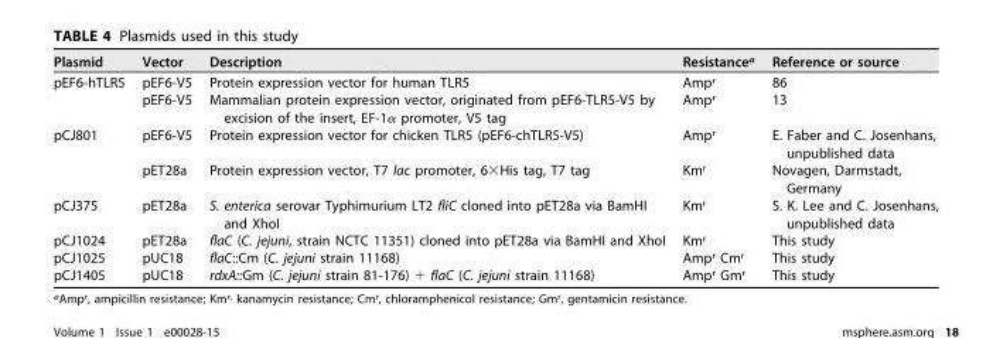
<table><thead><tr><td>Plasmid</td><td>Vector</td><td>Description</td><td>Resistance<sup>a</sup></td><td>Reference or source</td></tr></thead><tbody><tr><td rowspan="2">pEF6-hTLR5</td><td>pEF6-V5</td><td>Protein expression vector for human TLR5</td><td>Amp<sup>r</sup></td><td>86</td></tr><tr><td>pEF6-V5</td><td>Mammalian protein expression vector, originated from pEF6-TLR5-V5 by excision of the insert, EF-1α promoter, V5 tag</td><td>Amp<sup>r</sup></td><td>13</td></tr><tr><td rowspan="2">pCJ801</td><td>pEF6-V5</td><td>Protein expression vector for chicken TLR5 (pEF6-chTLR5-V5)</td><td>Amp<sup>r</sup></td><td>E. Faber and C. Josenhans, unpublished data</td></tr><tr><td>pET28a</td><td>Protein expression vector, T7 lac promoter, 6×His tag, T7 tag</td><td>Km<sup>r</sup></td><td>Novagen, Darmstadt, Germany</td></tr><tr><td>pCJ375</td><td>pET28a</td><td>S. enterica serovar Typhimurium LT2 fliC cloned into pET28a via BamHI and XhoI</td><td>Km<sup>r</sup></td><td>S. K. Lee and C. Josenhans, unpublished data</td></tr><tr><td>pCJ1024</td><td>pET28a</td><td>flaC (C. jejuni, strain NCTC 11351) cloned into pET28a via BamHI and XhoI</td><td>Km<sup>r</sup></td><td>This study</td></tr><tr><td>pCJ1025</td><td>pUC18</td><td>flaC::Cm (C. jejuni strain 11168)</td><td>Amp<sup>r</sup> Cm<sup>r</sup></td><td>This study</td></tr><tr><td>pCJ1405</td><td>pUC18</td><td>rdxA::Gm (C. jejuni strain 81-176) + flaC (C. jejuni strain 11168)</td><td>Amp<sup>r</sup> Gm<sup>r</sup></td><td>This study</td></tr></tbody></table>